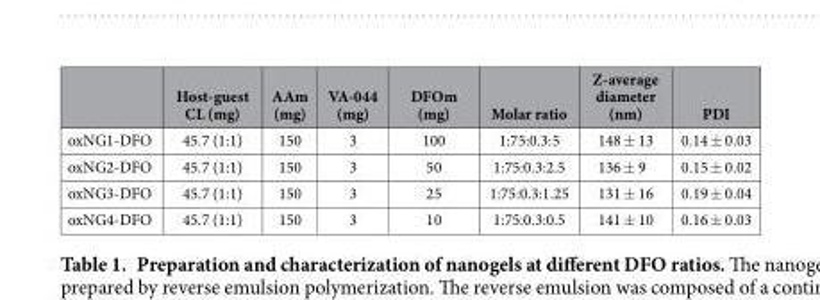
<table><thead><tr><td></td><td>Host-guest CL (mg)</td><td>AAm (mg)</td><td>VA-044 (mg)</td><td>DFOm (mg)</td><td>Molar ratio</td><td>Z-average diameter (nm)</td><td>PDI</td></tr></thead><tbody><tr><td>oxNG1-DFO</td><td>45.7 (1:1)</td><td>150</td><td>3</td><td>100</td><td>1:75:0.3:5</td><td>148 ± 13</td><td>0.14 ± 0.03</td></tr><tr><td>oxNG2-DFO</td><td>45.7 (1:1)</td><td>150</td><td>3</td><td>50</td><td>1:75:0.3:2.5</td><td>136 ± 9</td><td>0.15 ± 0.02</td></tr><tr><td>oxNG3-DFO</td><td>45.7 (1:1)</td><td>150</td><td>3</td><td>25</td><td>1:75:0.3:1.25</td><td>131 ± 16</td><td>0.19 ± 0.04</td></tr><tr><td>oxNG4-DFO</td><td>45.7 (1:1)</td><td>150</td><td>3</td><td>10</td><td>1:75:0.3:0.5</td><td>141 ± 10</td><td>0.16 ± 0.03</td></tr></tbody></table>